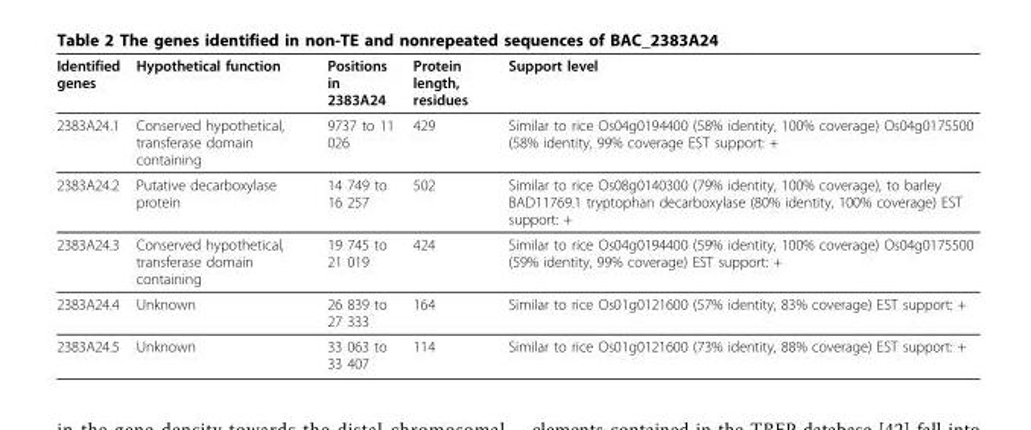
<table><thead><tr><td>Identified genes</td><td>Hypothetical function</td><td>Positions in 2383A24</td><td>Protein length, residues</td><td>Support level</td></tr></thead><tbody><tr><td>2383A24.1</td><td>Conserved hypothetical, transferase domain containing</td><td>9737 to 11 026</td><td>429</td><td>Similar to rice Os04g0194400 (58% identity, 100% coverage) Os04g0175500 (58% identity, 99% coverage EST support: +</td></tr><tr><td>2383A24.2</td><td>Putative decarboxylase protein</td><td>14 749 to 16 257</td><td>502</td><td>Similar to rice Os08g0140300 (79% identity, 100% coverage), to barley BAD11769.1 tryptophan decarboxylase (80% identity, 100% coverage) EST support: +</td></tr><tr><td>2383A24.3</td><td>Conserved hypothetical, transferase domain containing</td><td>19 745 to 21 019</td><td>424</td><td>Similar to rice Os04g0194400 (59% identity, 100% coverage) Os04g0175500 (59% identity, 99% coverage) EST support: +</td></tr><tr><td>2383A24.4</td><td>Unknown</td><td>26 839 to 27 333</td><td>164</td><td>Similar to rice Os01g0121600 (57% identity, 83% coverage) EST support: +</td></tr><tr><td>2383A24.5</td><td>Unknown</td><td>33 063 to 33 407</td><td>114</td><td>Similar to rice Os01g0121600 (73% identity, 88% coverage) EST support: +</td></tr></tbody></table>